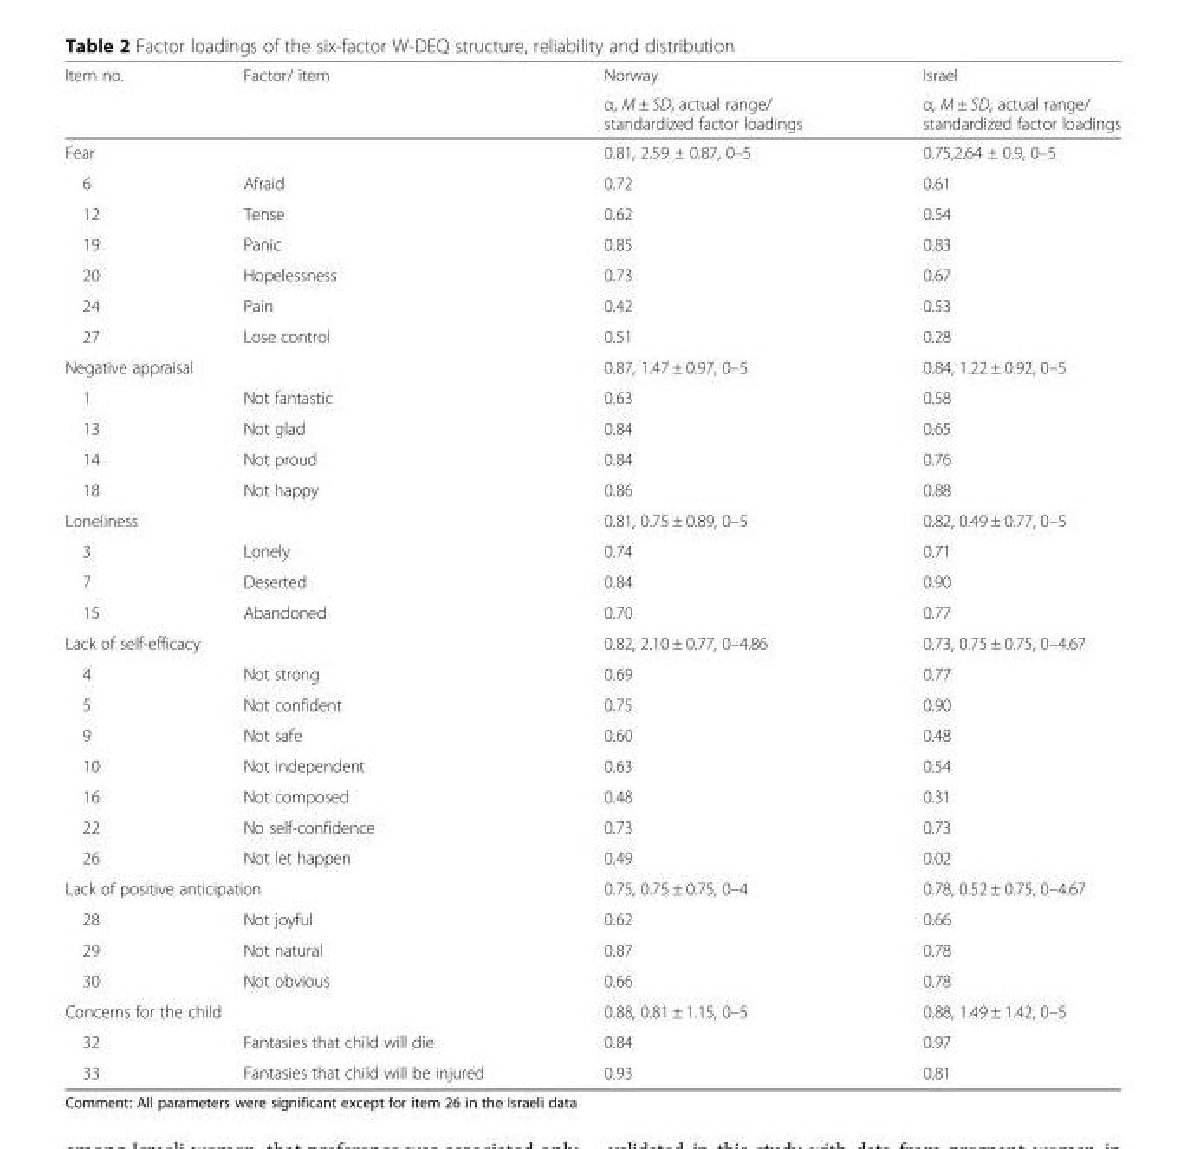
<table><thead><tr><td rowspan="2">Item no.</td><td rowspan="2">Factor/ item</td><td rowspan="2">Norway α, M ± SD, actual range/ standardized factor loadings</td><td rowspan="2">Israel α, M ± SD, actual range/ standardized factor loadings</td></tr><tr></tr></thead><tbody><tr><td colspan="2">Fear</td><td>0.81, 2.59 ± 0.87, 0–5</td><td>0.75,2.64 ± 0.9, 0–5</td></tr><tr><td>6</td><td>Afraid</td><td>0.72</td><td>0.61</td></tr><tr><td>12</td><td>Tense</td><td>0.62</td><td>0.54</td></tr><tr><td>19</td><td>Panic</td><td>0.85</td><td>0.83</td></tr><tr><td>20</td><td>Hopelessness</td><td>0.73</td><td>0.67</td></tr><tr><td>24</td><td>Pain</td><td>0.42</td><td>0.53</td></tr><tr><td>27</td><td>Lose control</td><td>0.51</td><td>0.28</td></tr><tr><td colspan="2">Negative appraisal</td><td>0.87, 1.47 ± 0.97, 0–5</td><td>0.84, 1.22 ± 0.92, 0–5</td></tr><tr><td>1</td><td>Not fantastic</td><td>0.63</td><td>0.58</td></tr><tr><td>13</td><td>Not glad</td><td>0.84</td><td>0.65</td></tr><tr><td>14</td><td>Not proud</td><td>0.84</td><td>0.76</td></tr><tr><td>18</td><td>Not happy</td><td>0.86</td><td>0.88</td></tr><tr><td colspan="2">Loneliness</td><td>0.81, 0.75 ± 0.89, 0–5</td><td>0.82, 0.49 ± 0.77, 0–5</td></tr><tr><td>3</td><td>Lonely</td><td>0.74</td><td>0.71</td></tr><tr><td>7</td><td>Deserted</td><td>0.84</td><td>0.90</td></tr><tr><td>15</td><td>Abandoned</td><td>0.70</td><td>0.77</td></tr><tr><td colspan="2">Lack of self-efficacy</td><td>0.82, 2.10 ± 0.77, 0–4.86</td><td>0.73, 0.75 ± 0.75, 0–4.67</td></tr><tr><td>4</td><td>Not strong</td><td>0.69</td><td>0.77</td></tr><tr><td>5</td><td>Not confident</td><td>0.75</td><td>0.90</td></tr><tr><td>9</td><td>Not safe</td><td>0.60</td><td>0.48</td></tr><tr><td>10</td><td>Not independent</td><td>0.63</td><td>0.54</td></tr><tr><td>16</td><td>Not composed</td><td>0.48</td><td>0.31</td></tr><tr><td>22</td><td>No self-confidence</td><td>0.73</td><td>0.73</td></tr><tr><td>26</td><td>Not let happen</td><td>0.49</td><td>0.02</td></tr><tr><td colspan="2">Lack of positive anticipation</td><td>0.75, 0.75 ± 0.75, 0–4</td><td>0.78, 0.52 ± 0.75, 0–4.67</td></tr><tr><td>28</td><td>Not joyful</td><td>0.62</td><td>0.66</td></tr><tr><td>29</td><td>Not natural</td><td>0.87</td><td>0.78</td></tr><tr><td>30</td><td>Not obvious</td><td>0.66</td><td>0.78</td></tr><tr><td colspan="2">Concerns for the child</td><td>0.88, 0.81 ± 1.15, 0–5</td><td>0.88, 1.49 ± 1.42, 0–5</td></tr><tr><td>32</td><td>Fantasies that child will die</td><td>0.84</td><td>0.97</td></tr><tr><td>33</td><td>Fantasies that child will be injured</td><td>0.93</td><td>0.81</td></tr></tbody></table>